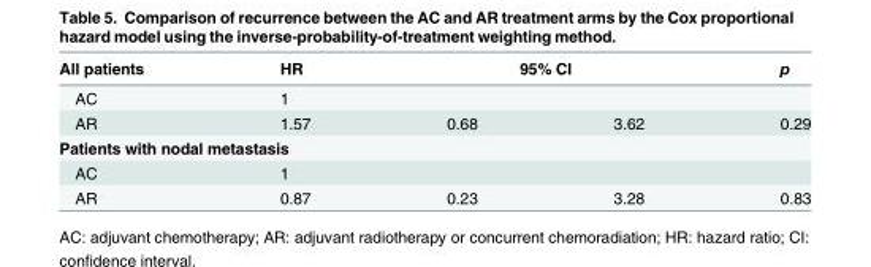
<table><thead><tr><td rowspan="2">All patients AC</td><td rowspan="2">HR 1</td><td colspan="2">95% CI</td><td rowspan="2">p</td></tr><tr><td></td><td></td></tr></thead><tbody><tr><td>AR</td><td>1.57</td><td>0.68</td><td>3.62</td><td>0.29</td></tr><tr><td colspan="5">Patients with nodal metastasis</td></tr><tr><td>AC</td><td>1</td><td></td><td></td><td></td></tr><tr><td>AR</td><td>0.87</td><td>0.23</td><td>3.28</td><td>0.83</td></tr></tbody></table>